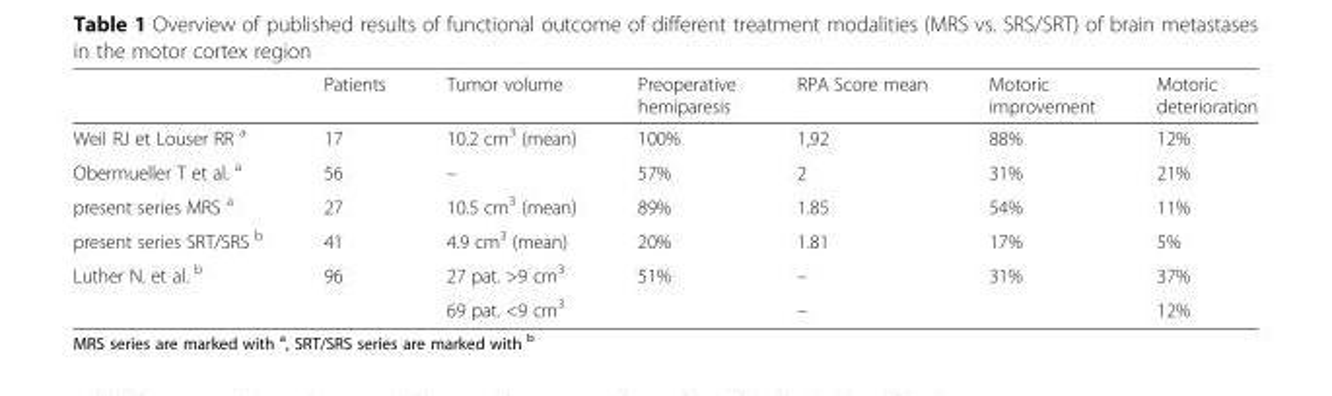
<table><thead><tr><td></td><td>Patients</td><td>Tumor volume</td><td>Preoperative hemiparesis</td><td>RPA Score mean</td><td>Motoric improvement</td><td>Motoric deterioration</td></tr></thead><tbody><tr><td>Weil RJ et Louser RR <sup>a</sup></td><td>17</td><td>10.2 cm<sup>3</sup> (mean)</td><td>100%</td><td>1,92</td><td>88%</td><td>12%</td></tr><tr><td>Obermueller T et al. <sup>a</sup></td><td>56</td><td>–</td><td>57%</td><td>2</td><td>31%</td><td>21%</td></tr><tr><td>present series MRS <sup>a</sup></td><td>27</td><td>10.5 cm<sup>3</sup> (mean)</td><td>89%</td><td>1.85</td><td>54%</td><td>11%</td></tr><tr><td>present series SRT/SRS <sup>b</sup></td><td>41</td><td>4.9 cm<sup>3</sup> (mean)</td><td>20%</td><td>1.81</td><td>17%</td><td>5%</td></tr><tr><td rowspan="2">Luther N. et al. <sup>b</sup></td><td rowspan="2">96</td><td>27 pat. &gt;9 cm<sup>3</sup></td><td rowspan="2">51%</td><td>–</td><td rowspan="2">31%</td><td>37%</td></tr><tr><td>69 pat. &lt;9 cm<sup>3</sup></td><td>–</td><td>12%</td></tr></tbody></table>